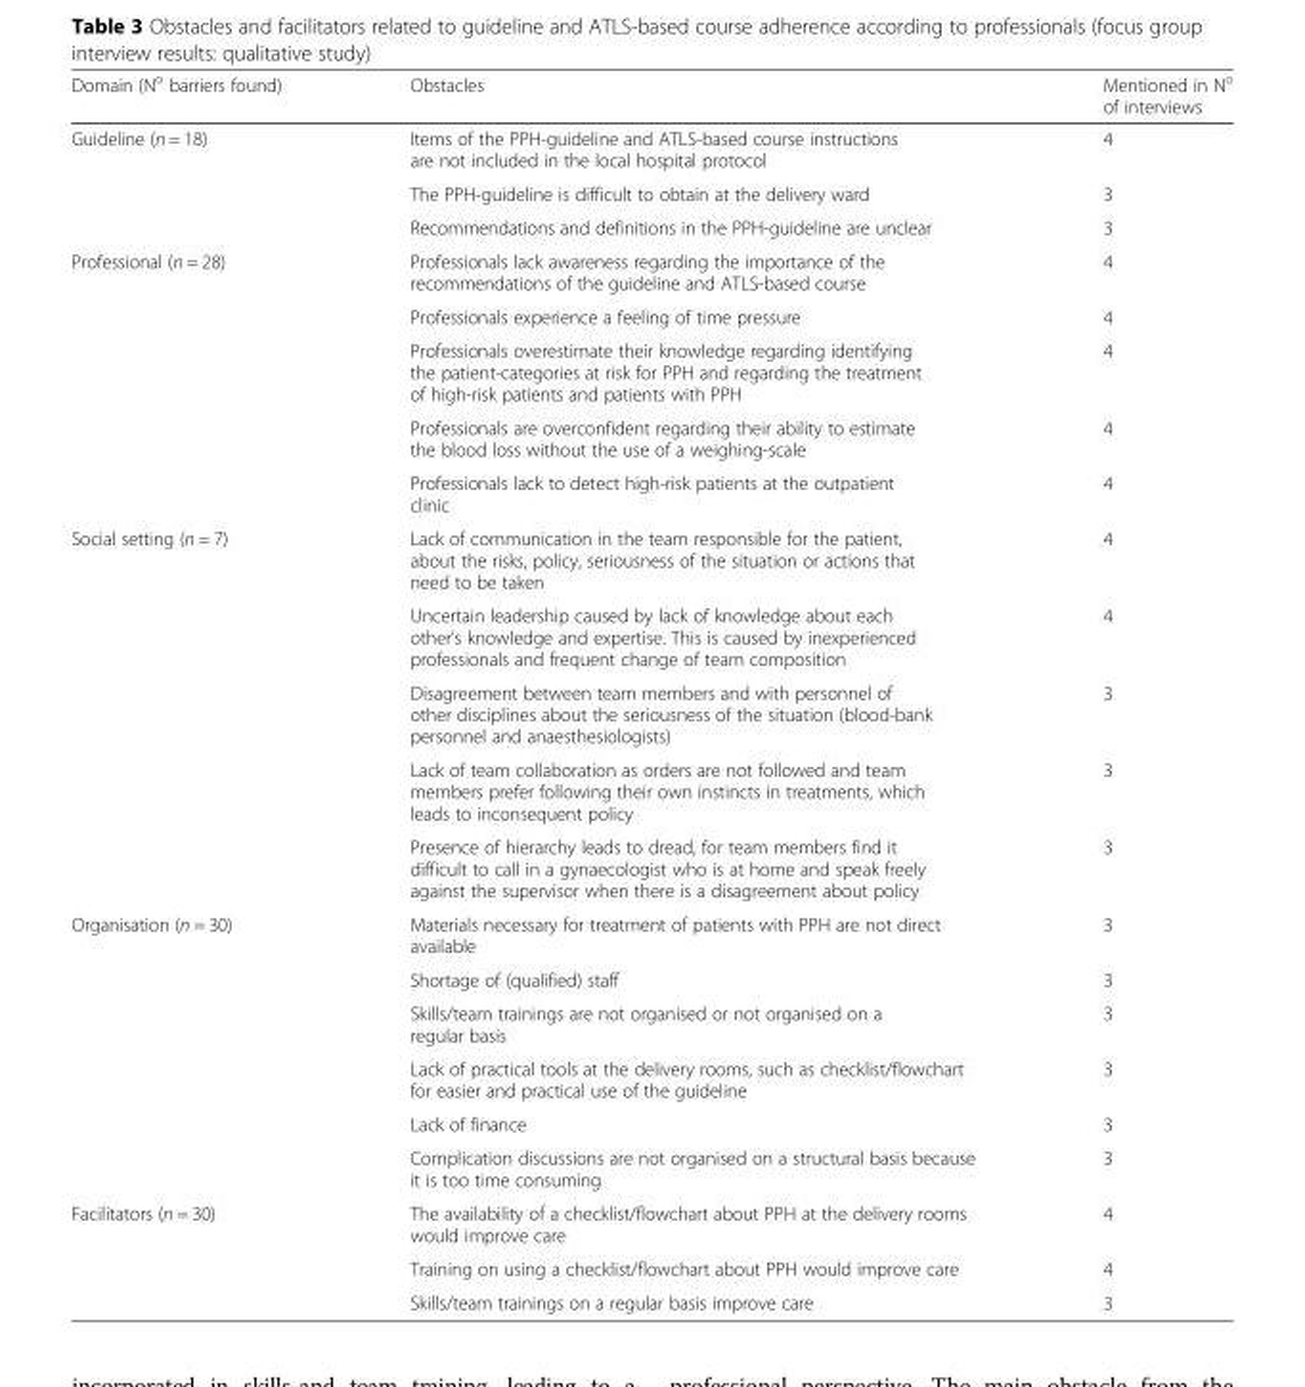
<table><thead><tr><td>Domain (N<sup>o</sup> barriers found)</td><td>Obstacles</td><td>Mentioned in N<sup>o</sup> of interviews</td></tr></thead><tbody><tr><td rowspan="3">Guideline (n = 18)</td><td>Items of the PPH-guideline and ATLS-based course instructions are not included in the local hospital protocol</td><td>4</td></tr><tr><td>The PPH-guideline is difficult to obtain at the delivery ward</td><td>3</td></tr><tr><td>Recommendations and definitions in the PPH-guideline are unclear</td><td>3</td></tr><tr><td rowspan="5">Professional (n = 28)</td><td>Professionals lack awareness regarding the importance of the recommendations of the guideline and ATLS-based course</td><td>4</td></tr><tr><td>Professionals experience a feeling of time pressure</td><td>4</td></tr><tr><td>Professionals overestimate their knowledge regarding identifying the patient-categories at risk for PPH and regarding the treatment of high-risk patients and patients with PPH</td><td>4</td></tr><tr><td>Professionals are overconfident regarding their ability to estimate the blood loss without the use of a weighing-scale</td><td>4</td></tr><tr><td>Professionals lack to detect high-risk patients at the outpatient clinic</td><td>4</td></tr><tr><td rowspan="5">Social setting (n = 7)</td><td>Lack of communication in the team responsible for the patient, about the risks, policy, seriousness of the situation or actions that need to be taken</td><td>4</td></tr><tr><td>Uncertain leadership caused by lack of knowledge about each other’s knowledge and expertise. This is caused by inexperienced professionals and frequent change of team composition</td><td>4</td></tr><tr><td>Disagreement between team members and with personnel of other disciplines about the seriousness of the situation (blood-bank personnel and anaesthesiologists)</td><td>3</td></tr><tr><td>Lack of team collaboration as orders are not followed and team members prefer following their own instincts in treatments, which leads to inconsequent policy</td><td>3</td></tr><tr><td>Presence of hierarchy leads to dread, for team members find it difficult to call in a gynaecologist who is at home and speak freely against the supervisor when there is a disagreement about policy</td><td>3</td></tr><tr><td rowspan="6">Organisation (n = 30)</td><td>Materials necessary for treatment of patients with PPH are not direct available</td><td>3</td></tr><tr><td>Shortage of (qualified) staff</td><td>3</td></tr><tr><td>Skills/team trainings are not organised or not organised on a regular basis</td><td>3</td></tr><tr><td>Lack of practical tools at the delivery rooms, such as checklist/flowchart for easier and practical use of the guideline</td><td>3</td></tr><tr><td>Lack of finance</td><td>3</td></tr><tr><td>Complication discussions are not organised on a structural basis because it is too time consuming</td><td>3</td></tr><tr><td rowspan="3">Facilitators (n = 30)</td><td>The availability of a checklist/flowchart about PPH at the delivery rooms would improve care</td><td>4</td></tr><tr><td>Training on using a checklist/flowchart about PPH would improve care</td><td>4</td></tr><tr><td>Skills/team trainings on a regular basis improve care</td><td>3</td></tr></tbody></table>